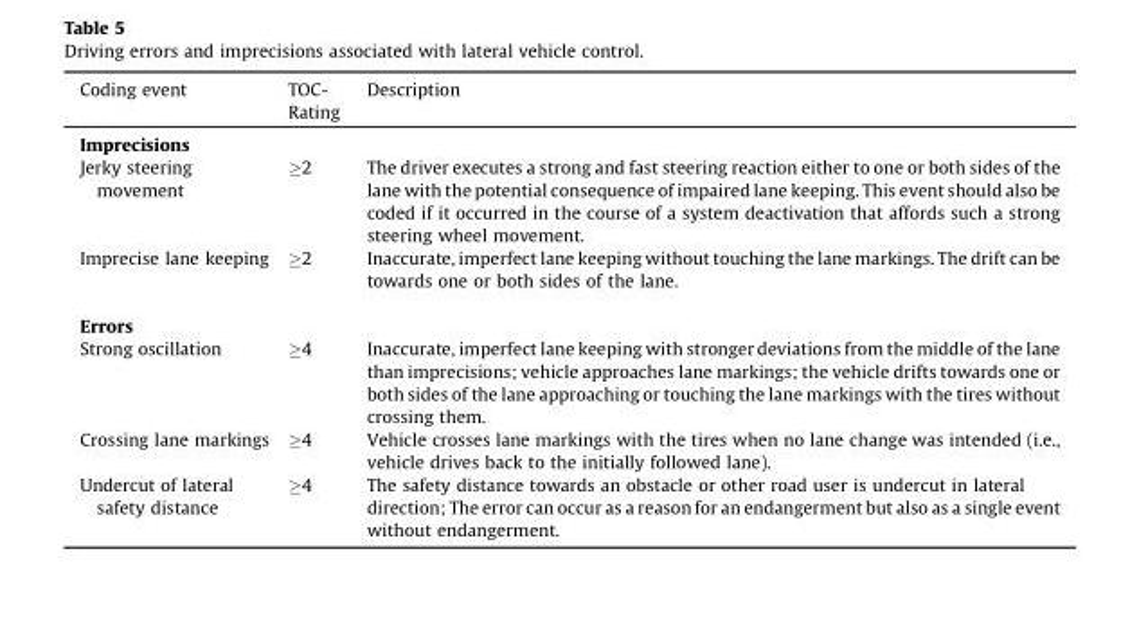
<table><thead><tr><td>Coding event</td><td>TOC- Rating</td><td>Description</td></tr></thead><tbody><tr><td colspan="3">Imprecisions</td></tr><tr><td>Jerky steering movement</td><td>≥2</td><td>The driver executes a strong and fast steering reaction either to one or both sides of the lane with the potential consequence of impaired lane keeping. This event should also be coded if it occurred in the course of a system deactivation that affords such a strong steering wheel movement.</td></tr><tr><td>Imprecise lane keeping</td><td>≥2</td><td>Inaccurate, imperfect lane keeping without touching the lane markings. The drift can be towards one or both sides of the lane.</td></tr><tr><td colspan="3">Errors</td></tr><tr><td>Strong oscillation</td><td>≥4</td><td>Inaccurate, imperfect lane keeping with stronger deviations from the middle of the lane than imprecisions; vehicle approaches lane markings; the vehicle drifts towards one or both sides of the lane approaching or touching the lane markings with the tires without crossing them.</td></tr><tr><td>Crossing lane markings</td><td>≥4</td><td>Vehicle crosses lane markings with the tires when no lane change was intended (i.e., vehicle drives back to the initially followed lane).</td></tr><tr><td>Undercut of lateral safety distance</td><td>≥4</td><td>The safety distance towards an obstacle or other road user is undercut in lateral direction; The error can occur as a reason for an endangerment but also as a single event without endangerment.</td></tr></tbody></table>